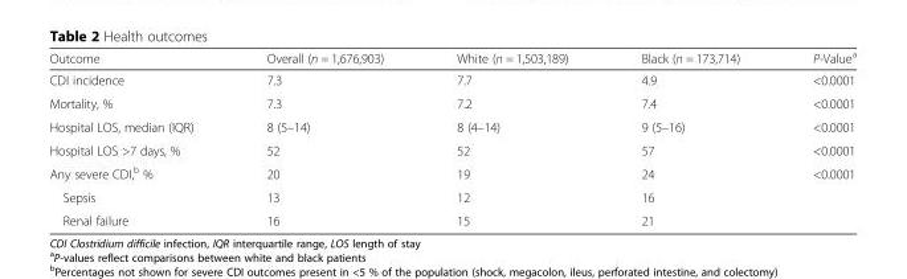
<table><thead><tr><td>Outcome</td><td>Overall (n = 1,676,903)</td><td>White (n = 1,503,189)</td><td>Black (n = 173,714)</td><td>P-Value<sup>a</sup></td></tr></thead><tbody><tr><td>CDI incidence</td><td>7.3</td><td>7.7</td><td>4.9</td><td>&lt;0.0001</td></tr><tr><td>Mortality, %</td><td>7.3</td><td>7.2</td><td>7.4</td><td>&lt;0.0001</td></tr><tr><td>Hospital LOS, median (IQR)</td><td>8 (5–14)</td><td>8 (4–14)</td><td>9 (5–16)</td><td>&lt;0.0001</td></tr><tr><td>Hospital LOS &gt;7 days, %</td><td>52</td><td>52</td><td>57</td><td>&lt;0.0001</td></tr><tr><td>Any severe CDI,<sup>b</sup> %</td><td>20</td><td>19</td><td>24</td><td rowspan="3">&lt;0.0001</td></tr><tr><td>Sepsis</td><td>13</td><td>12</td><td>16</td></tr><tr><td>Renal failure</td><td>16</td><td>15</td><td>21</td></tr></tbody></table>